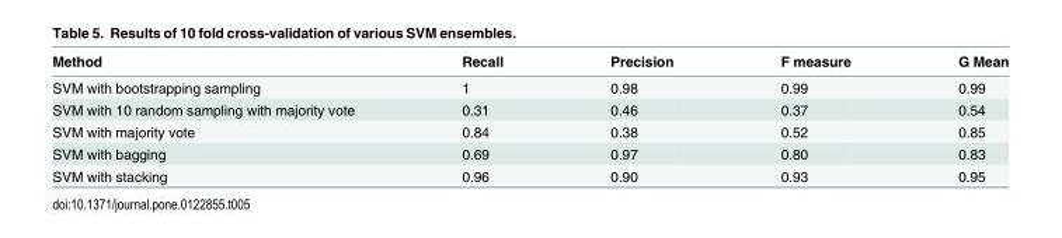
<table><thead><tr><td>Method</td><td>Recall</td><td>Precision</td><td>F measure</td><td>G Mean</td></tr></thead><tbody><tr><td>SVM with bootstrapping sampling</td><td>1</td><td>0.98</td><td>0.99</td><td>0.99</td></tr><tr><td>SVM with 10 random sampling with majority vote</td><td>0.31</td><td>0.46</td><td>0.37</td><td>0.54</td></tr><tr><td>SVM with majority vote</td><td>0.84</td><td>0.38</td><td>0.52</td><td>0.85</td></tr><tr><td>SVM with bagging</td><td>0.69</td><td>0.97</td><td>0.80</td><td>0.83</td></tr><tr><td>SVM with stacking</td><td>0.96</td><td>0.90</td><td>0.93</td><td>0.95</td></tr></tbody></table>